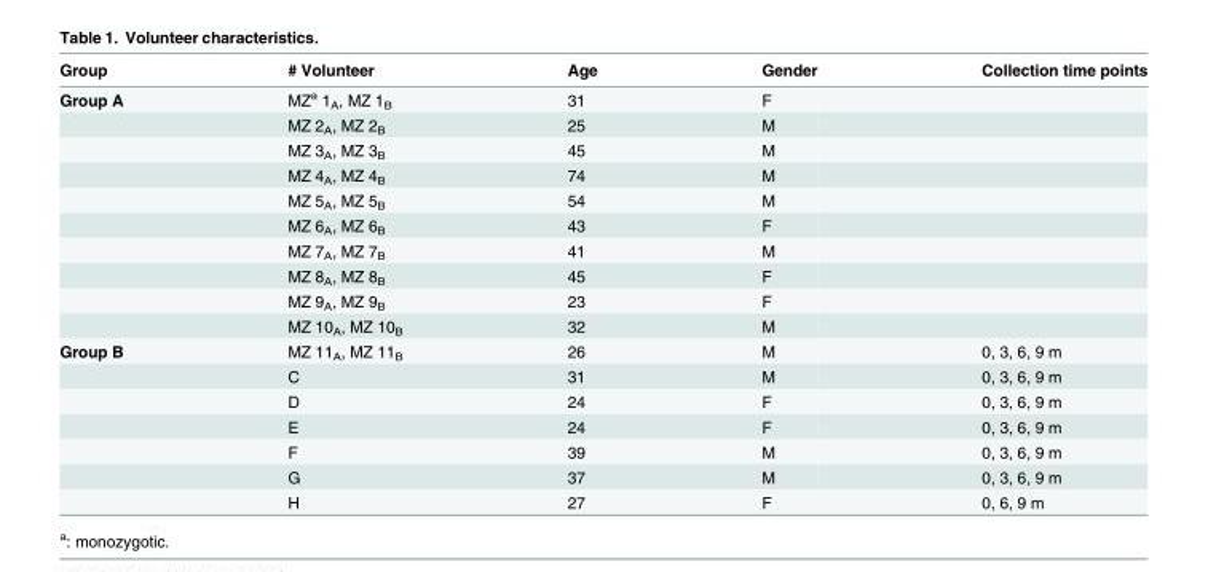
<table><thead><tr><td>Group</td><td># Volunteer</td><td>Age</td><td>Gender</td><td>Collection time points</td></tr></thead><tbody><tr><td rowspan="10">Group A</td><td>MZ<sup>a</sup> 1<sub>A</sub>, MZ 1<sub>B</sub></td><td>31</td><td>F</td><td></td></tr><tr><td>MZ 2<sub>A</sub>, MZ 2<sub>B</sub></td><td>25</td><td>M</td><td></td></tr><tr><td>MZ 3<sub>A</sub>, MZ 3<sub>B</sub></td><td>45</td><td>M</td><td></td></tr><tr><td>MZ 4<sub>A</sub>, MZ 4<sub>B</sub></td><td>74</td><td>M</td><td></td></tr><tr><td>MZ 5<sub>A</sub>, MZ 5<sub>B</sub></td><td>54</td><td>M</td><td></td></tr><tr><td>MZ 6<sub>A</sub>, MZ 6<sub>B</sub></td><td>43</td><td>F</td><td></td></tr><tr><td>MZ 7<sub>A</sub>, MZ 7<sub>B</sub></td><td>41</td><td>M</td><td></td></tr><tr><td>MZ 8<sub>A</sub>, MZ 8<sub>B</sub></td><td>45</td><td>F</td><td></td></tr><tr><td>MZ 9<sub>A</sub>, MZ 9<sub>B</sub></td><td>23</td><td>F</td><td></td></tr><tr><td>MZ 10<sub>A</sub>, MZ 10<sub>B</sub></td><td>32</td><td>M</td><td></td></tr><tr><td rowspan="7">Group B</td><td>MZ 11<sub>A</sub>, MZ 11<sub>B</sub></td><td>26</td><td>M</td><td>0, 3, 6, 9 m</td></tr><tr><td>C</td><td>31</td><td>M</td><td>0, 3, 6, 9 m</td></tr><tr><td>D</td><td>24</td><td>F</td><td>0, 3, 6, 9 m</td></tr><tr><td>E</td><td>24</td><td>F</td><td>0, 3, 6, 9 m</td></tr><tr><td>F</td><td>39</td><td>M</td><td>0, 3, 6, 9 m</td></tr><tr><td>G</td><td>37</td><td>M</td><td>0, 3, 6, 9 m</td></tr><tr><td>H</td><td>27</td><td>F</td><td>0, 6, 9 m</td></tr></tbody></table>